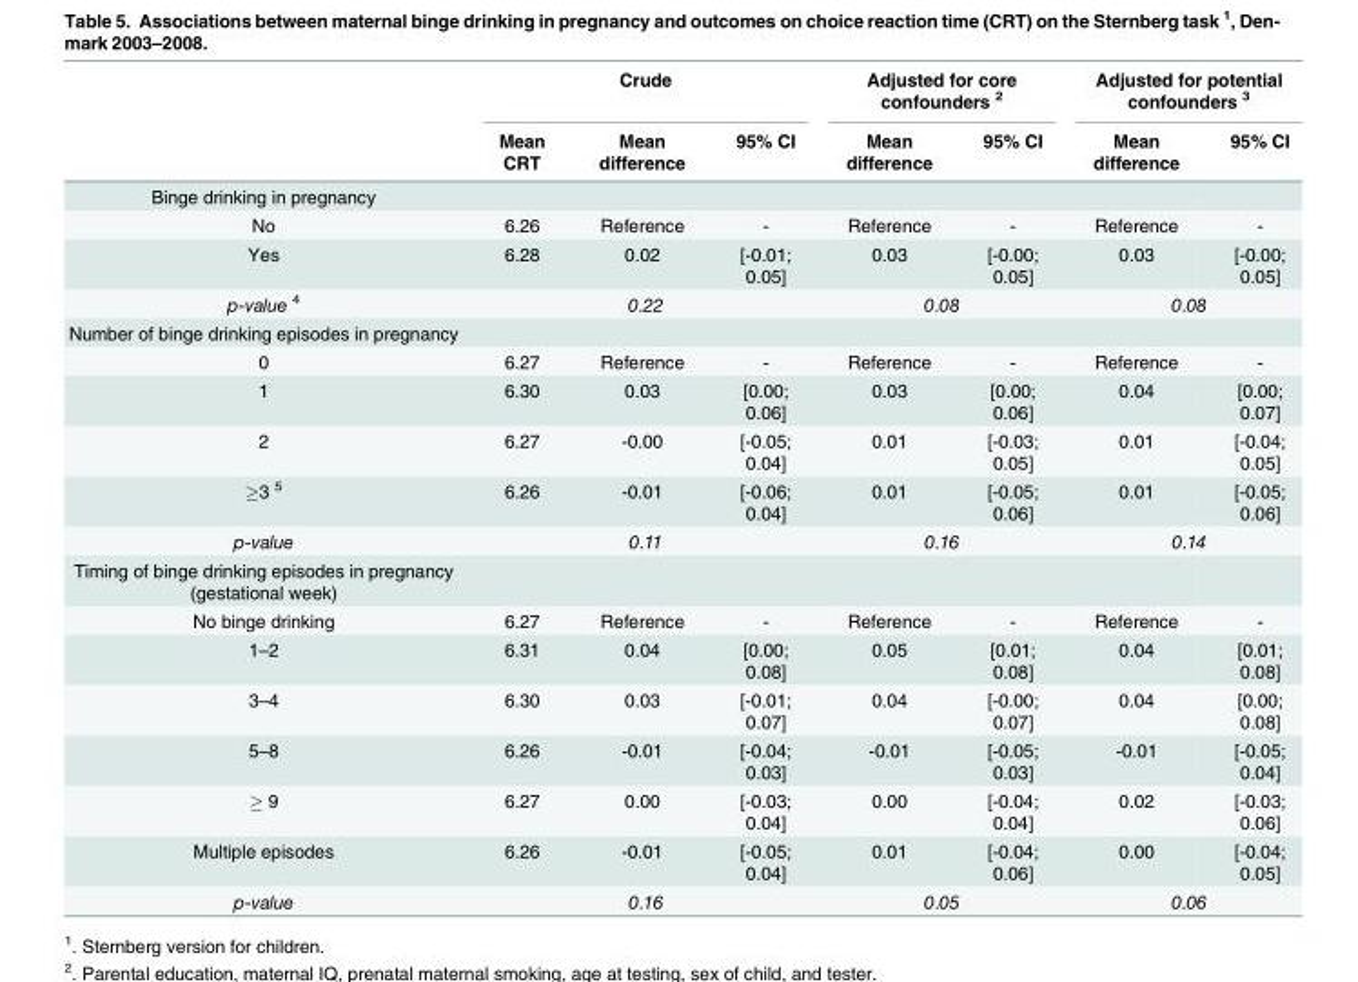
<table><thead><tr><td rowspan="2"></td><td colspan="3">Crude</td><td colspan="2">Adjusted for core confounders <sup>2</sup></td><td colspan="2">Adjusted for potential confounders <sup>3</sup></td></tr><tr><td>Mean CRT</td><td>Mean difference</td><td>95% CI</td><td>Mean difference</td><td>95% CI</td><td>Mean difference</td><td>95% CI</td></tr></thead><tbody><tr><td colspan="8">Binge drinking in pregnancy</td></tr><tr><td>No</td><td>6.26</td><td>Reference</td><td>-</td><td>Reference</td><td>-</td><td>Reference</td><td>-</td></tr><tr><td>Yes</td><td>6.28</td><td>0.02</td><td>[-0.01; 0.05]</td><td>0.03</td><td>[-0.00; 0.05]</td><td>0.03</td><td>[-0.00; 0.05]</td></tr><tr><td>p-value <sup>4</sup></td><td colspan="3">0.22</td><td colspan="2">0.08</td><td colspan="2">0.08</td></tr><tr><td colspan="8">Number of binge drinking episodes in pregnancy</td></tr><tr><td>0</td><td>6.27</td><td>Reference</td><td>-</td><td>Reference</td><td>-</td><td>Reference</td><td>-</td></tr><tr><td>1</td><td>6.30</td><td>0.03</td><td>[0.00; 0.06]</td><td>0.03</td><td>[0.00; 0.06]</td><td>0.04</td><td>[0.00; 0.07]</td></tr><tr><td>2</td><td>6.27</td><td>-0.00</td><td>[-0.05; 0.04]</td><td>0.01</td><td>[-0.03; 0.05]</td><td>0.01</td><td>[-0.04; 0.05]</td></tr><tr><td>≥3 <sup>5</sup></td><td>6.26</td><td>-0.01</td><td>[-0.06; 0.04]</td><td>0.01</td><td>[-0.05; 0.06]</td><td>0.01</td><td>[-0.05; 0.06]</td></tr><tr><td>p-value</td><td colspan="3">0.11</td><td colspan="2">0.16</td><td colspan="2">0.14</td></tr><tr><td colspan="8">Timing of binge drinking episodes in pregnancy (gestational week)</td></tr><tr><td>No binge drinking</td><td>6.27</td><td>Reference</td><td>-</td><td>Reference</td><td>-</td><td>Reference</td><td>-</td></tr><tr><td>1–2</td><td>6.31</td><td>0.04</td><td>[0.00; 0.08]</td><td>0.05</td><td>[0.01; 0.08]</td><td>0.04</td><td>[0.01; 0.08]</td></tr><tr><td>3–4</td><td>6.30</td><td>0.03</td><td>[-0.01; 0.07]</td><td>0.04</td><td>[-0.00; 0.07]</td><td>0.04</td><td>[0.00; 0.08]</td></tr><tr><td>5–8</td><td>6.26</td><td>-0.01</td><td>[-0.04; 0.03]</td><td>-0.01</td><td>[-0.05; 0.03]</td><td>-0.01</td><td>[-0.05; 0.04]</td></tr><tr><td>≥ 9</td><td>6.27</td><td>0.00</td><td>[-0.03; 0.04]</td><td>0.00</td><td>[-0.04; 0.04]</td><td>0.02</td><td>[-0.03; 0.06]</td></tr><tr><td>Multiple episodes</td><td>6.26</td><td>-0.01</td><td>[-0.05; 0.04]</td><td>0.01</td><td>[-0.04; 0.06]</td><td>0.00</td><td>[-0.04; 0.05]</td></tr><tr><td>p-value</td><td colspan="3">0.16</td><td colspan="2">0.05</td><td colspan="2">0.06</td></tr></tbody></table>